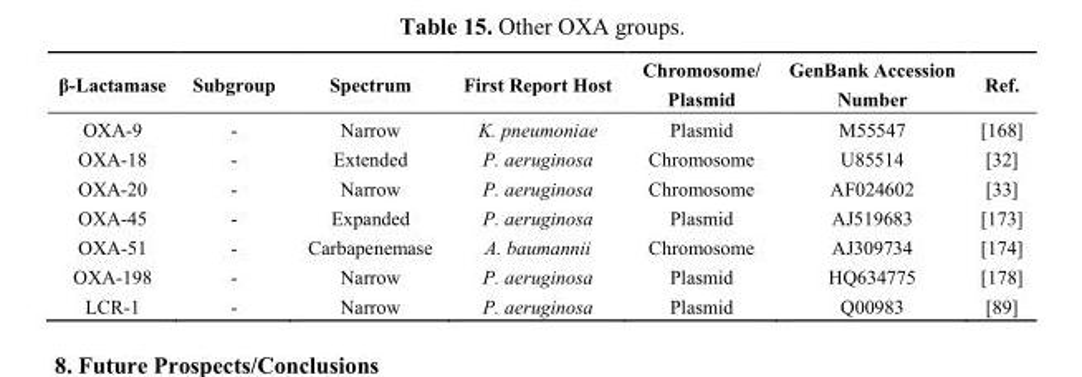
<table><thead><tr><td>β-Lactamase</td><td>Subgroup</td><td>Spectrum</td><td>First Report Host</td><td>Chromosome/ Plasmid</td><td>GenBank Accession Number</td><td>Ref.</td></tr></thead><tbody><tr><td>OXA-9</td><td>-</td><td>Narrow</td><td>K. pneumoniae</td><td>Plasmid</td><td>M55547</td><td>[168]</td></tr><tr><td>OXA-18</td><td>-</td><td>Extended</td><td>P. aeruginosa</td><td>Chromosome</td><td>U85514</td><td>[32]</td></tr><tr><td>OXA-20</td><td>-</td><td>Narrow</td><td>P. aeruginosa</td><td>Chromosome</td><td>AF024602</td><td>[33]</td></tr><tr><td>OXA-45</td><td>-</td><td>Expanded</td><td>P. aeruginosa</td><td>Plasmid</td><td>AJ519683</td><td>[173]</td></tr><tr><td>OXA-51</td><td>-</td><td>Carbapenemase</td><td>A. baumannii</td><td>Chromosome</td><td>AJ309734</td><td>[174]</td></tr><tr><td>OXA-198</td><td>-</td><td>Narrow</td><td>P. aeruginosa</td><td>Plasmid</td><td>HQ634775</td><td>[178]</td></tr><tr><td>LCR-1</td><td>-</td><td>Narrow</td><td>P. aeruginosa</td><td>Plasmid</td><td>Q00983</td><td>[89]</td></tr></tbody></table>